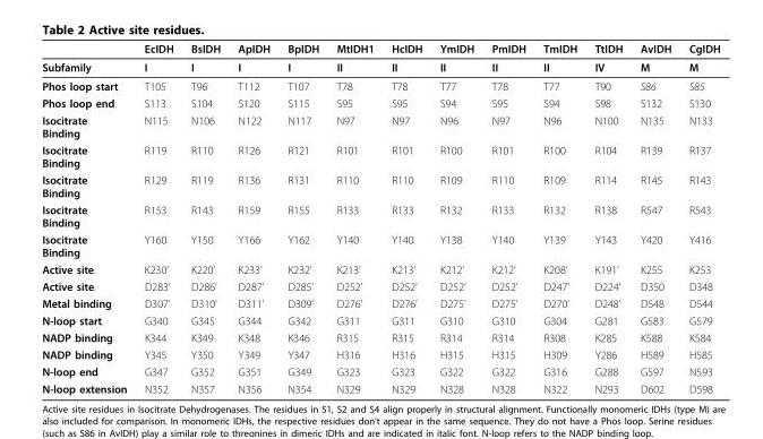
<table><thead><tr><td></td><td>EcIDH</td><td>BsIDH</td><td>ApIDH</td><td>BpIDH</td><td>MtIDH1</td><td>HcIDH</td><td>YmIDH</td><td>PmIDH</td><td>TmIDH</td><td>TtIDH</td><td>AvIDH</td><td>CgIDH</td></tr></thead><tbody><tr><td>Subfamily</td><td>I</td><td>I</td><td>I</td><td>I</td><td>II</td><td>II</td><td>II</td><td>II</td><td>II</td><td>IV</td><td>M</td><td>M</td></tr><tr><td>Phos loop start</td><td>T105</td><td>T96</td><td>T112</td><td>T107</td><td>T78</td><td>T78</td><td>T77</td><td>T78</td><td>T77</td><td>T90</td><td>S86</td><td>S85</td></tr><tr><td>Phos loop end</td><td>S113</td><td>S104</td><td>S120</td><td>S115</td><td>S95</td><td>S95</td><td>S94</td><td>S95</td><td>S94</td><td>S98</td><td>S132</td><td>S130</td></tr><tr><td>Isocitrate Binding</td><td>N115</td><td>N106</td><td>N122</td><td>N117</td><td>N97</td><td>N97</td><td>N96</td><td>N97</td><td>N96</td><td>N100</td><td>N135</td><td>N133</td></tr><tr><td>Isocitrate Binding</td><td>R119</td><td>R110</td><td>R126</td><td>R121</td><td>R101</td><td>R101</td><td>R100</td><td>R101</td><td>R100</td><td>R104</td><td>R139</td><td>R137</td></tr><tr><td>Isocitrate Binding</td><td>R129</td><td>R119</td><td>R136</td><td>R131</td><td>R110</td><td>R110</td><td>R109</td><td>R110</td><td>R109</td><td>R114</td><td>R145</td><td>R143</td></tr><tr><td>Isocitrate Binding</td><td>R153</td><td>R143</td><td>R159</td><td>R155</td><td>R133</td><td>R133</td><td>R132</td><td>R133</td><td>R132</td><td>R138</td><td>R547</td><td>R543</td></tr><tr><td>Isocitrate Binding</td><td>Y160</td><td>Y150</td><td>Y166</td><td>Y162</td><td>Y140</td><td>Y140</td><td>Y138</td><td>Y140</td><td>Y139</td><td>Y143</td><td>Y420</td><td>Y416</td></tr><tr><td>Active site.</td><td>K230’</td><td>K220’</td><td>K233’</td><td>K232’</td><td>K213’</td><td>K213’</td><td>K212’</td><td>K212’</td><td>K208’</td><td>K191’</td><td>K255</td><td>K253</td></tr><tr><td>Active site.</td><td>D283’</td><td>D286’</td><td>D287’</td><td>D285’</td><td>D252’</td><td>D252’</td><td>D252’</td><td>D252’</td><td>D247’</td><td>D224’</td><td>D350</td><td>D348</td></tr><tr><td>Metal binding</td><td>D307’</td><td>D310’</td><td>D311’</td><td>D309’</td><td>D276’</td><td>D276’</td><td>D275’</td><td>D275’</td><td>D270’</td><td>D248’</td><td>D548</td><td>D544</td></tr><tr><td>N-loop start.</td><td>G340</td><td>G345</td><td>G344</td><td>G342</td><td>G311</td><td>G311</td><td>G310</td><td>G310</td><td>G304</td><td>G281</td><td>G583</td><td>G579</td></tr><tr><td>NADP binding</td><td>K344</td><td>K349</td><td>K348</td><td>K346</td><td>R315</td><td>R315</td><td>R314</td><td>R314</td><td>R308</td><td>K285</td><td>K588</td><td>K584</td></tr><tr><td>NADP binding</td><td>Y345</td><td>Y350</td><td>Y349</td><td>Y347</td><td>H316</td><td>H316</td><td>H315</td><td>H315</td><td>H309</td><td>Y286</td><td>H589</td><td>H585</td></tr><tr><td>N-loop end</td><td>G347</td><td>G352</td><td>G351</td><td>G349</td><td>G323</td><td>G323</td><td>G322</td><td>G322</td><td>G316</td><td>G288</td><td>G597</td><td>N593</td></tr><tr><td>N-loop extension</td><td>N352</td><td>N357</td><td>N356</td><td>N354</td><td>N329</td><td>N329</td><td>N328</td><td>N328</td><td>N322</td><td>N293</td><td>D602</td><td>D598</td></tr></tbody></table>